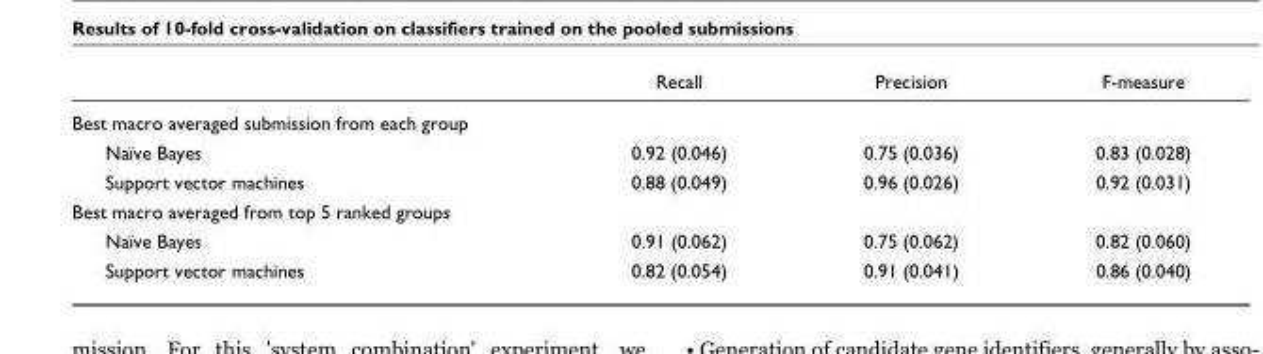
<table><thead><tr><td></td><td>Recall</td><td>Precision</td><td>F-measure</td></tr></thead><tbody><tr><td colspan="4">Best macro averaged submission from each group</td></tr><tr><td>Naïve Bayes</td><td>0.92 (0.046)</td><td>0.75 (0.036)</td><td>0.83 (0.028)</td></tr><tr><td>Support vector machines</td><td>0.88 (0.049)</td><td>0.96 (0.026)</td><td>0.92 (0.031)</td></tr><tr><td colspan="4">Best macro averaged from top 5 ranked groups</td></tr><tr><td>Naïve Bayes</td><td>0.91 (0.062)</td><td>0.75 (0.062)</td><td>0.82 (0.060)</td></tr><tr><td>Support vector machines</td><td>0.82 (0.054)</td><td>0.91 (0.041)</td><td>0.86 (0.040)</td></tr></tbody></table>